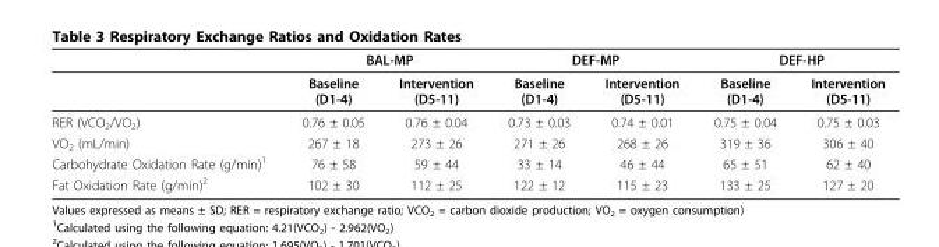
<table><thead><tr><td rowspan="2"></td><td colspan="2">BAL-MP</td><td colspan="2">DEF-MP</td><td colspan="2">DEF-HP</td></tr><tr><td>Baseline (D1-4)</td><td>Intervention (D5-11)</td><td>Baseline (D1-4)</td><td>Intervention (D5-11)</td><td>Baseline (D1-4)</td><td>Intervention (D5-11)</td></tr></thead><tbody><tr><td>RER (VCO<sub>2</sub>/VO<sub>2</sub>)</td><td>0.76 ± 0.05</td><td>0.76 ± 0.04</td><td>0.73 ± 0.03</td><td>0.74 ± 0.01</td><td>0.75 ± 0.04</td><td>0.75 ± 0.03</td></tr><tr><td>VO<sub>2</sub> (mL/min)</td><td>267 ± 18</td><td>273 ± 26</td><td>271 ± 26</td><td>268 ± 26</td><td>319 ± 36</td><td>306 ± 40</td></tr><tr><td>Carbohydrate Oxidation Rate (g/min)<sup>1</sup></td><td>76 ± 58</td><td>59 ± 44</td><td>33 ± 14</td><td>46 ± 44</td><td>65 ± 51</td><td>62 ± 40</td></tr><tr><td>Fat Oxidation Rate (g/min)<sup>2</sup></td><td>102 ± 30</td><td>112 ± 25</td><td>122 ± 12</td><td>115 ± 23</td><td>133 ± 25</td><td>127 ± 20</td></tr></tbody></table>